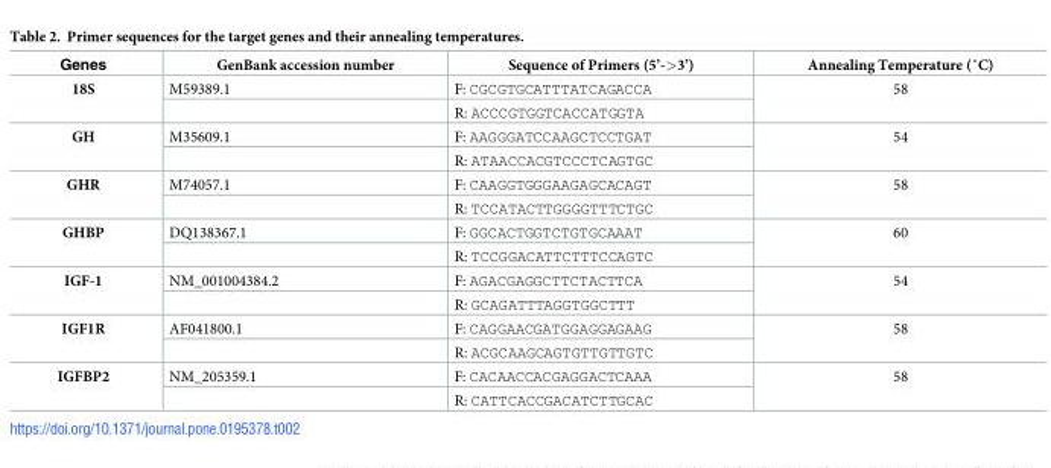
<table><thead><tr><td>Genes</td><td>GenBank accession number</td><td>Sequence of Primers (5’-&gt;3’)</td><td>Annealing Temperature (˚C)</td></tr></thead><tbody><tr><td rowspan="2">18S</td><td>M59389.1</td><td>F: CGCGTGCATTTATCAGACCA</td><td rowspan="2">58</td></tr><tr><td></td><td>R: ACCCGTGGTCACCATGGTA</td></tr><tr><td rowspan="2">GH</td><td>M35609.1</td><td>F: AAGGGATCCAAGCTCCTGAT</td><td rowspan="2">54</td></tr><tr><td></td><td>R: ATAACCACGTCCCTCAGTGC</td></tr><tr><td rowspan="2">GHR</td><td>M74057.1</td><td>F: CAAGGTGGGAAGAGCACAGT</td><td rowspan="2">58</td></tr><tr><td></td><td>R: TCCATACTTGGGGTTTCTGC</td></tr><tr><td rowspan="2">GHBP</td><td>DQ138367.1</td><td>F: GGCACTGGTCTGTGCAAAT</td><td rowspan="2">60</td></tr><tr><td></td><td>R: TCCGGACATTCTTTCCAGTC</td></tr><tr><td rowspan="2">IGF-1</td><td>NM_001004384.2</td><td>F: AGACGAGGCTTCTACTTCA</td><td rowspan="2">54</td></tr><tr><td></td><td>R: GCAGATTTAGGTGGCTTT</td></tr><tr><td rowspan="2">IGF1R</td><td>AF041800.1</td><td>F: CAGGAACGATGGAGGAGAAG</td><td rowspan="2">58</td></tr><tr><td></td><td>R: ACGCAAGCAGTGTTGTTGTC</td></tr><tr><td rowspan="2">IGFBP2</td><td>NM_205359.1</td><td>F: CACAACCACGAGGACTCAAA</td><td rowspan="2">58</td></tr><tr><td></td><td>R: CATTCACCGACATCTTGCAC</td></tr></tbody></table>